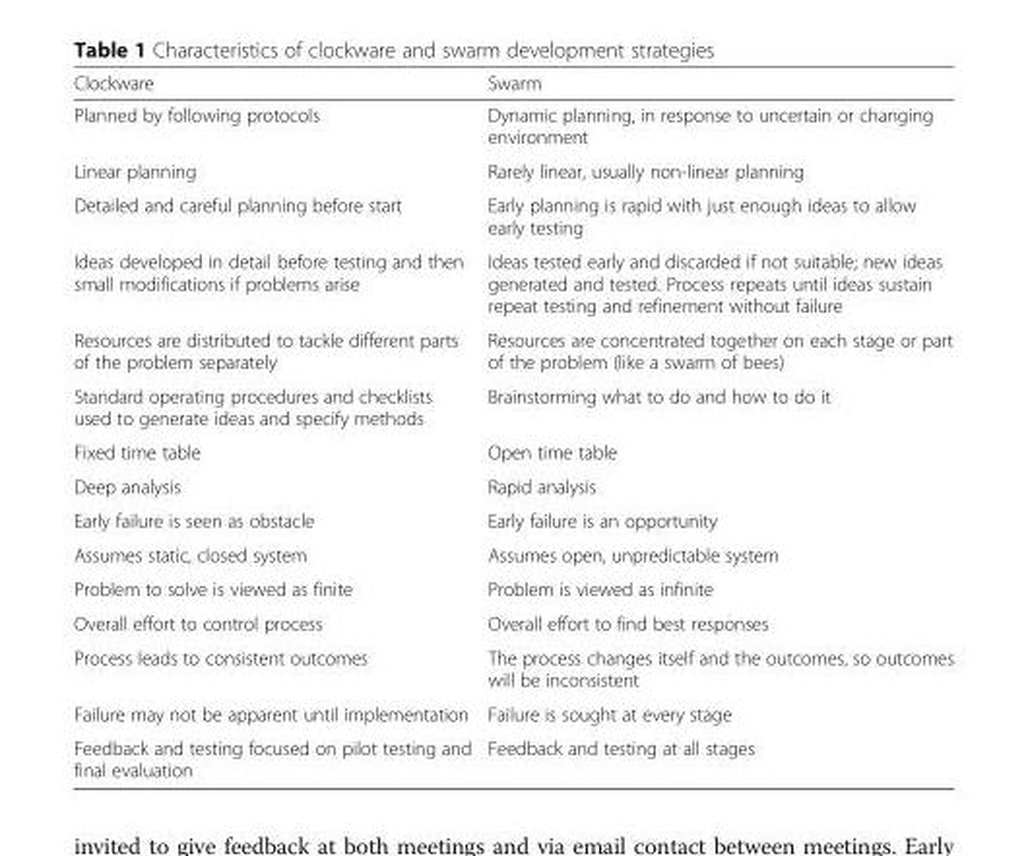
<table><thead><tr><td>Clockware</td><td>Swarm</td></tr></thead><tbody><tr><td>Planned by following protocols</td><td>Dynamic planning, in response to uncertain or changing environment</td></tr><tr><td>Linear planning</td><td>Rarely linear, usually non-linear planning</td></tr><tr><td>Detailed and careful planning before start</td><td>Early planning is rapid with just enough ideas to allow early testing</td></tr><tr><td>Ideas developed in detail before testing and then small modifications if problems arise</td><td>Ideas tested early and discarded if not suitable; new ideas generated and tested. Process repeats until ideas sustain repeat testing and refinement without failure</td></tr><tr><td>Resources are distributed to tackle different parts of the problem separately</td><td>Resources are concentrated together on each stage or part of the problem (like a swarm of bees)</td></tr><tr><td>Standard operating procedures and checklists used to generate ideas and specify methods</td><td>Brainstorming what to do and how to do it</td></tr><tr><td>Fixed time table</td><td>Open time table</td></tr><tr><td>Deep analysis</td><td>Rapid analysis</td></tr><tr><td>Early failure is seen as obstacle</td><td>Early failure is an opportunity</td></tr><tr><td>Assumes static, closed system</td><td>Assumes open, unpredictable system</td></tr><tr><td>Problem to solve is viewed as finite</td><td>Problem is viewed as infinite</td></tr><tr><td>Overall effort to control process</td><td>Overall effort to find best responses</td></tr><tr><td>Process leads to consistent outcomes</td><td>The process changes itself and the outcomes, so outcomes will be inconsistent</td></tr><tr><td>Failure may not be apparent until implementation</td><td>Failure is sought at every stage</td></tr><tr><td>Feedback and testing focused on pilot testing and final evaluation</td><td>Feedback and testing at all stages</td></tr></tbody></table>